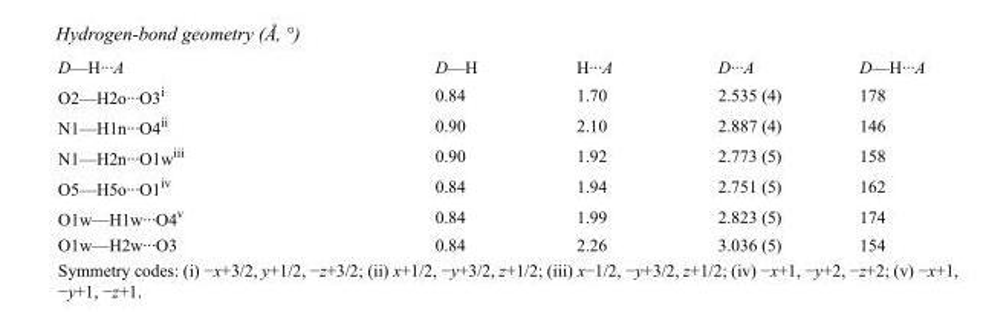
<table><tbody><tr><td>D—H···A</td><td>D—H</td><td>H···A</td><td>D···A</td><td>D—H···A</td></tr><tr><td>O2—H2o···O3<sup>i</sup></td><td>0.84</td><td>1.70</td><td>2.535 (4)</td><td>178</td></tr><tr><td>N1—H1n···O4<sup>ii</sup></td><td>0.90</td><td>2.10</td><td>2.887 (4)</td><td>146</td></tr><tr><td>N1—H2n···O1w<sup>iii</sup></td><td>0.90</td><td>1.92</td><td>2.773 (5)</td><td>158</td></tr><tr><td>O5—H5o···O1<sup>iv</sup></td><td>0.84</td><td>1.94</td><td>2.751 (5)</td><td>162</td></tr><tr><td>O1w—H1w···O4<sup>v</sup></td><td>0.84</td><td>1.99</td><td>2.823 (5)</td><td>174</td></tr><tr><td>O1w—H2w···O3</td><td>0.84</td><td>2.26</td><td>3.036 (5)</td><td>154</td></tr></tbody></table>